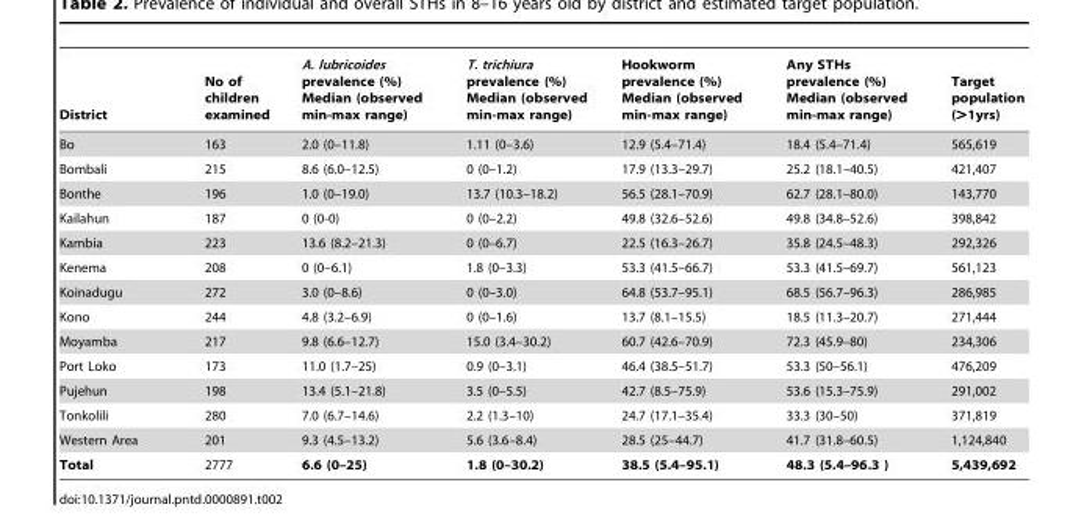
<table><thead><tr><td>District</td><td>No of children examined</td><td>A. lubricoides prevalence (%) Median (observed min-max range)</td><td>T. trichiura prevalence (%) Median (observed min-max range)</td><td>Hookworm prevalence (%) Median (observed min-max range)</td><td>Any STHs prevalence (%) Median (observed min-max range)</td><td>Target population (&gt;1yrs)</td></tr></thead><tbody><tr><td>Bo</td><td>163</td><td>2.0 (0–11.8)</td><td>1.11 (0–3.6)</td><td>12.9 (5.4–71.4)</td><td>18.4 (5.4–71.4)</td><td>565,619</td></tr><tr><td>Bombali</td><td>215</td><td>8.6 (6.0–12.5)</td><td>0 (0–1.2)</td><td>17.9 (13.3–29.7)</td><td>25.2 (18.1–40.5)</td><td>421,407</td></tr><tr><td>Bonthe</td><td>196</td><td>1.0 (0–19.0)</td><td>13.7 (10.3–18.2)</td><td>56.5 (28.1–70.9)</td><td>62.7 (28.1–80.0)</td><td>143,770</td></tr><tr><td>Kailahun</td><td>187</td><td>0 (0-0)</td><td>0 (0–2.2)</td><td>49.8 (32.6–52.6)</td><td>49.8 (34.8–52.6)</td><td>398,842</td></tr><tr><td>Kambia</td><td>223</td><td>13.6 (8.2–21.3)</td><td>0 (0–6.7)</td><td>22.5 (16.3–26.7)</td><td>35.8 (24.5–48.3)</td><td>292,326</td></tr><tr><td>Kenema</td><td>208</td><td>0 (0–6.1)</td><td>1.8 (0–3.3)</td><td>53.3 (41.5–66.7)</td><td>53.3 (41.5–69.7)</td><td>561,123</td></tr><tr><td>Koinadugu</td><td>272</td><td>3.0 (0–8.6)</td><td>0 (0–3.0)</td><td>64.8 (53.7–95.1)</td><td>68.5 (56.7–96.3)</td><td>286,985</td></tr><tr><td>Kono</td><td>244</td><td>4.8 (3.2–6.9)</td><td>0 (0–1.6)</td><td>13.7 (8.1–15.5)</td><td>18.5 (11.3–20.7)</td><td>271,444</td></tr><tr><td>Moyamba</td><td>217</td><td>9.8 (6.6–12.7)</td><td>15.0 (3.4–30.2)</td><td>60.7 (42.6–70.9)</td><td>72.3 (45.9–80)</td><td>234,306</td></tr><tr><td>Port Loko</td><td>173</td><td>11.0 (1.7–25)</td><td>0.9 (0–3.1)</td><td>46.4 (38.5–51.7)</td><td>53.3 (50–56.1)</td><td>476,209</td></tr><tr><td>Pujehun</td><td>198</td><td>13.4 (5.1–21.8)</td><td>3.5 (0–5.5)</td><td>42.7 (8.5–75.9)</td><td>53.6 (15.3–75.9)</td><td>291,002</td></tr><tr><td>Tonkolili</td><td>280</td><td>7.0 (6.7–14.6)</td><td>2.2 (1.3–10)</td><td>24.7 (17.1–35.4)</td><td>33.3 (30–50)</td><td>371,819</td></tr><tr><td>Western Area</td><td>201</td><td>9.3 (4.5–13.2)</td><td>5.6 (3.6–8.4)</td><td>28.5 (25–44.7)</td><td>41.7 (31.8–60.5)</td><td>1,124,840</td></tr><tr><td>Total</td><td>2777</td><td>6.6 (0–25)</td><td>1.8 (0–30.2)</td><td>38.5 (5.4–95.1)</td><td>48.3 (5.4–96.3 )</td><td>5,439,692</td></tr></tbody></table>